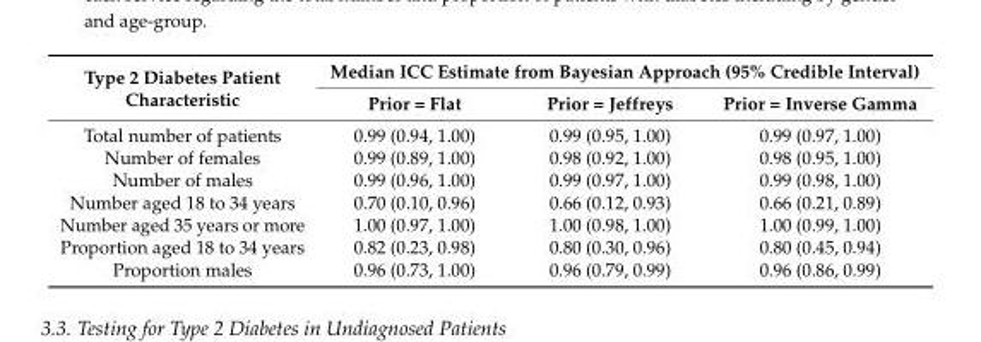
<table><thead><tr><td rowspan="2">Type 2 Diabetes Patient Characteristic</td><td colspan="3">Median ICC Estimate from Bayesian Approach (95% Credible Interval)</td></tr><tr><td>Prior = Flat</td><td>Prior = Jeffreys</td><td>Prior = Inverse Gamma</td></tr></thead><tbody><tr><td>Total number of patients</td><td>0.99 (0.94, 1.00)</td><td>0.99 (0.95, 1.00)</td><td>0.99 (0.97, 1.00)</td></tr><tr><td>Number of females</td><td>0.99 (0.89, 1.00)</td><td>0.98 (0.92, 1.00)</td><td>0.98 (0.95, 1.00)</td></tr><tr><td>Number of males</td><td>0.99 (0.96, 1.00)</td><td>0.99 (0.97, 1.00)</td><td>0.99 (0.98, 1.00)</td></tr><tr><td>Number aged 18 to 34 years</td><td>0.70 (0.10, 0.96)</td><td>0.66 (0.12, 0.93)</td><td>0.66 (0.21, 0.89)</td></tr><tr><td>Number aged 35 years or more</td><td>1.00 (0.97, 1.00)</td><td>1.00 (0.98, 1.00)</td><td>1.00 (0.99, 1.00)</td></tr><tr><td>Proportion aged 18 to 34 years</td><td>0.82 (0.23, 0.98)</td><td>0.80 (0.30, 0.96)</td><td>0.80 (0.45, 0.94)</td></tr><tr><td>Proportion males</td><td>0.96 (0.73, 1.00)</td><td>0.96 (0.79, 0.99)</td><td>0.96 (0.86, 0.99)</td></tr></tbody></table>